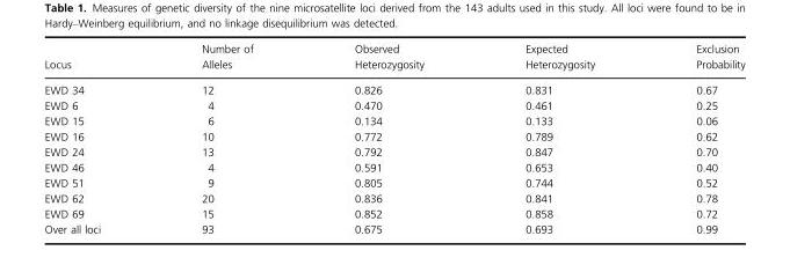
<table><thead><tr><td>Locus</td><td>Number of Alleles</td><td>Observed Heterozygosity</td><td>Expected Heterozygosity</td><td>Exclusion Probability</td></tr></thead><tbody><tr><td>EWD 34</td><td>12</td><td>0.826</td><td>0.831</td><td>0.67</td></tr><tr><td>EWD 6</td><td>4</td><td>0.470</td><td>0.461</td><td>0.25</td></tr><tr><td>EWD 15</td><td>6</td><td>0.134</td><td>0.133</td><td>0.06</td></tr><tr><td>EWD 16</td><td>10</td><td>0.772</td><td>0.789</td><td>0.62</td></tr><tr><td>EWD 24</td><td>13</td><td>0.792</td><td>0.847</td><td>0.70</td></tr><tr><td>EWD 46</td><td>4</td><td>0.591</td><td>0.653</td><td>0.40</td></tr><tr><td>EWD 51</td><td>9</td><td>0.805</td><td>0.744</td><td>0.52</td></tr><tr><td>EWD 62</td><td>20</td><td>0.836</td><td>0.841</td><td>0.78</td></tr><tr><td>EWD 69</td><td>15</td><td>0.852</td><td>0.858</td><td>0.72</td></tr><tr><td>Over all loci</td><td>93</td><td>0.675</td><td>0.693</td><td>0.99</td></tr></tbody></table>